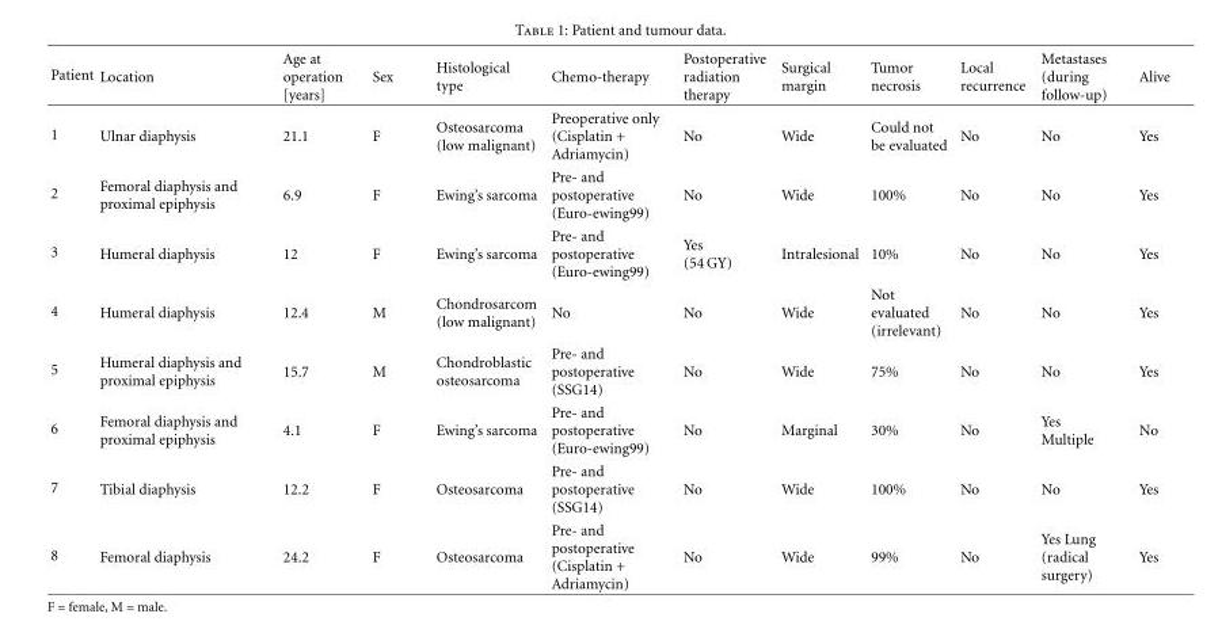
<table><thead><tr><td>Patient</td><td>Location</td><td>Age at operation [years]</td><td>Sex</td><td>Histological type</td><td>Chemo-therapy</td><td>Postoperative radiation therapy</td><td>Surgical margin</td><td>Tumor necrosis</td><td>Local recurrence</td><td>Metastases (during follow-up)</td><td>Alive</td></tr></thead><tbody><tr><td>1</td><td>Ulnar diaphysis</td><td>21.1</td><td>F</td><td>Osteosarcoma (low malignant)</td><td>Preoperative only (Cisplatin + Adriamycin)</td><td>No</td><td>Wide</td><td>Could not be evaluated</td><td>No</td><td>No</td><td>Yes</td></tr><tr><td>2</td><td>Femoral diaphysis and proximal epiphysis</td><td>6.9</td><td>F</td><td>Ewing’s sarcoma</td><td>Pre- and postoperative (Euro-ewing99)</td><td>No</td><td>Wide</td><td>100%</td><td>No</td><td>No</td><td>Yes</td></tr><tr><td>3</td><td>Humeral diaphysis</td><td>12</td><td>F</td><td>Ewing’s sarcoma</td><td>Pre- and postoperative (Euro-ewing99)</td><td>Yes (54 GY)</td><td>Intralesional</td><td>10%</td><td>No</td><td>No</td><td>Yes</td></tr><tr><td>4</td><td>Humeral diaphysis</td><td>12.4</td><td>M</td><td>Chondrosarcom (low malignant)</td><td>No</td><td>No</td><td>Wide</td><td>Not evaluated (irrelevant)</td><td>No</td><td>No</td><td>Yes</td></tr><tr><td>5</td><td>Humeral diaphysis and proximal epiphysis</td><td>15.7</td><td>M</td><td>Chondroblastic osteosarcoma</td><td>Pre- and postoperative (SSG14)</td><td>No</td><td>Wide</td><td>75%</td><td>No</td><td>No</td><td>Yes</td></tr><tr><td>6</td><td>Femoral diaphysis and proximal epiphysis</td><td>4.1</td><td>F</td><td>Ewing’s sarcoma</td><td>Pre- and postoperative (Euro-ewing99)</td><td>No</td><td>Marginal</td><td>30%</td><td>No</td><td>Yes Multiple</td><td>No</td></tr><tr><td>7</td><td>Tibial diaphysis</td><td>12.2</td><td>F</td><td>Osteosarcoma</td><td>Pre- and postoperative (SSG14)</td><td>No</td><td>Wide</td><td>100%</td><td>No</td><td>No</td><td>Yes</td></tr><tr><td>8</td><td>Femoral diaphysis</td><td>24.2</td><td>F</td><td>Osteosarcoma</td><td>Pre- and postoperative (Cisplatin + Adriamycin)</td><td>No</td><td>Wide</td><td>99%</td><td>No</td><td>Yes Lung (radical surgery)</td><td>Yes</td></tr></tbody></table>